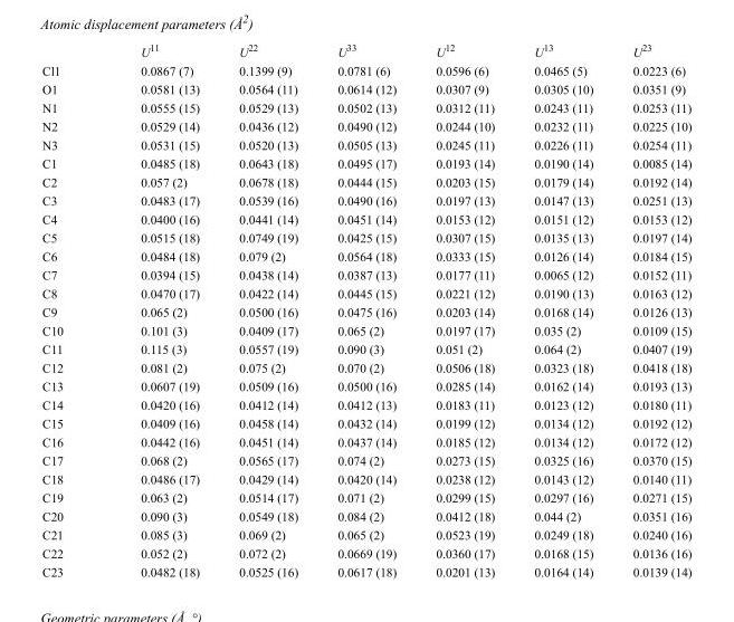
<table><thead><tr><td></td><td>U<sup>11</sup></td><td>U<sup>22</sup></td><td>U<sup>33</sup></td><td>U<sup>12</sup></td><td>U<sup>13</sup></td><td>U<sup>23</sup></td></tr></thead><tbody><tr><td>Cl1</td><td>0.0867 (7)</td><td>0.1399 (9)</td><td>0.0781 (6)</td><td>0.0596 (6)</td><td>0.0465 (5)</td><td>0.0223 (6)</td></tr><tr><td>O1</td><td>0.0581 (13)</td><td>0.0564 (11)</td><td>0.0614 (12)</td><td>0.0307 (9)</td><td>0.0305 (10)</td><td>0.0351 (9)</td></tr><tr><td>N1</td><td>0.0555 (15)</td><td>0.0529 (13)</td><td>0.0502 (13)</td><td>0.0312 (11)</td><td>0.0243 (11)</td><td>0.0253 (11)</td></tr><tr><td>N2</td><td>0.0529 (14)</td><td>0.0436 (12)</td><td>0.0490 (12)</td><td>0.0244 (10)</td><td>0.0232 (11)</td><td>0.0225 (10)</td></tr><tr><td>N3</td><td>0.0531 (15)</td><td>0.0520 (13)</td><td>0.0505 (13)</td><td>0.0245 (11)</td><td>0.0226 (11)</td><td>0.0254 (11)</td></tr><tr><td>C1</td><td>0.0485 (18)</td><td>0.0643 (18)</td><td>0.0495 (17)</td><td>0.0193 (14)</td><td>0.0190 (14)</td><td>0.0085 (14)</td></tr><tr><td>C2</td><td>0.057 (2)</td><td>0.0678 (18)</td><td>0.0444 (15)</td><td>0.0203 (15)</td><td>0.0179 (14)</td><td>0.0192 (14)</td></tr><tr><td>C3</td><td>0.0483 (17)</td><td>0.0539 (16)</td><td>0.0490 (16)</td><td>0.0197 (13)</td><td>0.0147 (13)</td><td>0.0251 (13)</td></tr><tr><td>C4</td><td>0.0400 (16)</td><td>0.0441 (14)</td><td>0.0451 (14)</td><td>0.0153 (12)</td><td>0.0151 (12)</td><td>0.0153 (12)</td></tr><tr><td>C5</td><td>0.0515 (18)</td><td>0.0749 (19)</td><td>0.0425 (15)</td><td>0.0307 (15)</td><td>0.0135 (13)</td><td>0.0197 (14)</td></tr><tr><td>C6</td><td>0.0484 (18)</td><td>0.079 (2)</td><td>0.0564 (18)</td><td>0.0333 (15)</td><td>0.0126 (14)</td><td>0.0184 (15)</td></tr><tr><td>C7</td><td>0.0394 (15)</td><td>0.0438 (14)</td><td>0.0387 (13)</td><td>0.0177 (11)</td><td>0.0065 (12)</td><td>0.0152 (11)</td></tr><tr><td>C8</td><td>0.0470 (17)</td><td>0.0422 (14)</td><td>0.0445 (15)</td><td>0.0221 (12)</td><td>0.0190 (13)</td><td>0.0163 (12)</td></tr><tr><td>C9</td><td>0.065 (2)</td><td>0.0500 (16)</td><td>0.0475 (16)</td><td>0.0203 (14)</td><td>0.0168 (14)</td><td>0.0126 (13)</td></tr><tr><td>C10</td><td>0.101 (3)</td><td>0.0409 (17)</td><td>0.065 (2)</td><td>0.0197 (17)</td><td>0.035 (2)</td><td>0.0109 (15)</td></tr><tr><td>C11</td><td>0.115 (3)</td><td>0.0557 (19)</td><td>0.090 (3)</td><td>0.051 (2)</td><td>0.064 (2)</td><td>0.0407 (19)</td></tr><tr><td>C12</td><td>0.081 (2)</td><td>0.075 (2)</td><td>0.070 (2)</td><td>0.0506 (18)</td><td>0.0323 (18)</td><td>0.0418 (18)</td></tr><tr><td>C13</td><td>0.0607 (19)</td><td>0.0509 (16)</td><td>0.0500 (16)</td><td>0.0285 (14)</td><td>0.0162 (14)</td><td>0.0193 (13)</td></tr><tr><td>C14</td><td>0.0420 (16)</td><td>0.0412 (14)</td><td>0.0412 (13)</td><td>0.0183 (11)</td><td>0.0123 (12)</td><td>0.0180 (11)</td></tr><tr><td>C15</td><td>0.0409 (16)</td><td>0.0458 (14)</td><td>0.0432 (14)</td><td>0.0199 (12)</td><td>0.0134 (12)</td><td>0.0192 (12)</td></tr><tr><td>C16</td><td>0.0442 (16)</td><td>0.0451 (14)</td><td>0.0437 (14)</td><td>0.0185 (12)</td><td>0.0134 (12)</td><td>0.0172 (12)</td></tr><tr><td>C17</td><td>0.068 (2)</td><td>0.0565 (17)</td><td>0.074 (2)</td><td>0.0273 (15)</td><td>0.0325 (16)</td><td>0.0370 (15)</td></tr><tr><td>C18</td><td>0.0486 (17)</td><td>0.0429 (14)</td><td>0.0420 (14)</td><td>0.0238 (12)</td><td>0.0143 (12)</td><td>0.0140 (11)</td></tr><tr><td>C19</td><td>0.063 (2)</td><td>0.0514 (17)</td><td>0.071 (2)</td><td>0.0299 (15)</td><td>0.0297 (16)</td><td>0.0271 (15)</td></tr><tr><td>C20</td><td>0.090 (3)</td><td>0.0549 (18)</td><td>0.084 (2)</td><td>0.0412 (18)</td><td>0.044 (2)</td><td>0.0351 (16)</td></tr><tr><td>C21</td><td>0.085 (3)</td><td>0.069 (2)</td><td>0.065 (2)</td><td>0.0523 (19)</td><td>0.0249 (18)</td><td>0.0240 (16)</td></tr><tr><td>C22</td><td>0.052 (2)</td><td>0.072 (2)</td><td>0.0669 (19)</td><td>0.0360 (17)</td><td>0.0168 (15)</td><td>0.0136 (16)</td></tr><tr><td>C23</td><td>0.0482 (18)</td><td>0.0525 (16)</td><td>0.0617 (18)</td><td>0.0201 (13)</td><td>0.0164 (14)</td><td>0.0139 (14)</td></tr></tbody></table>